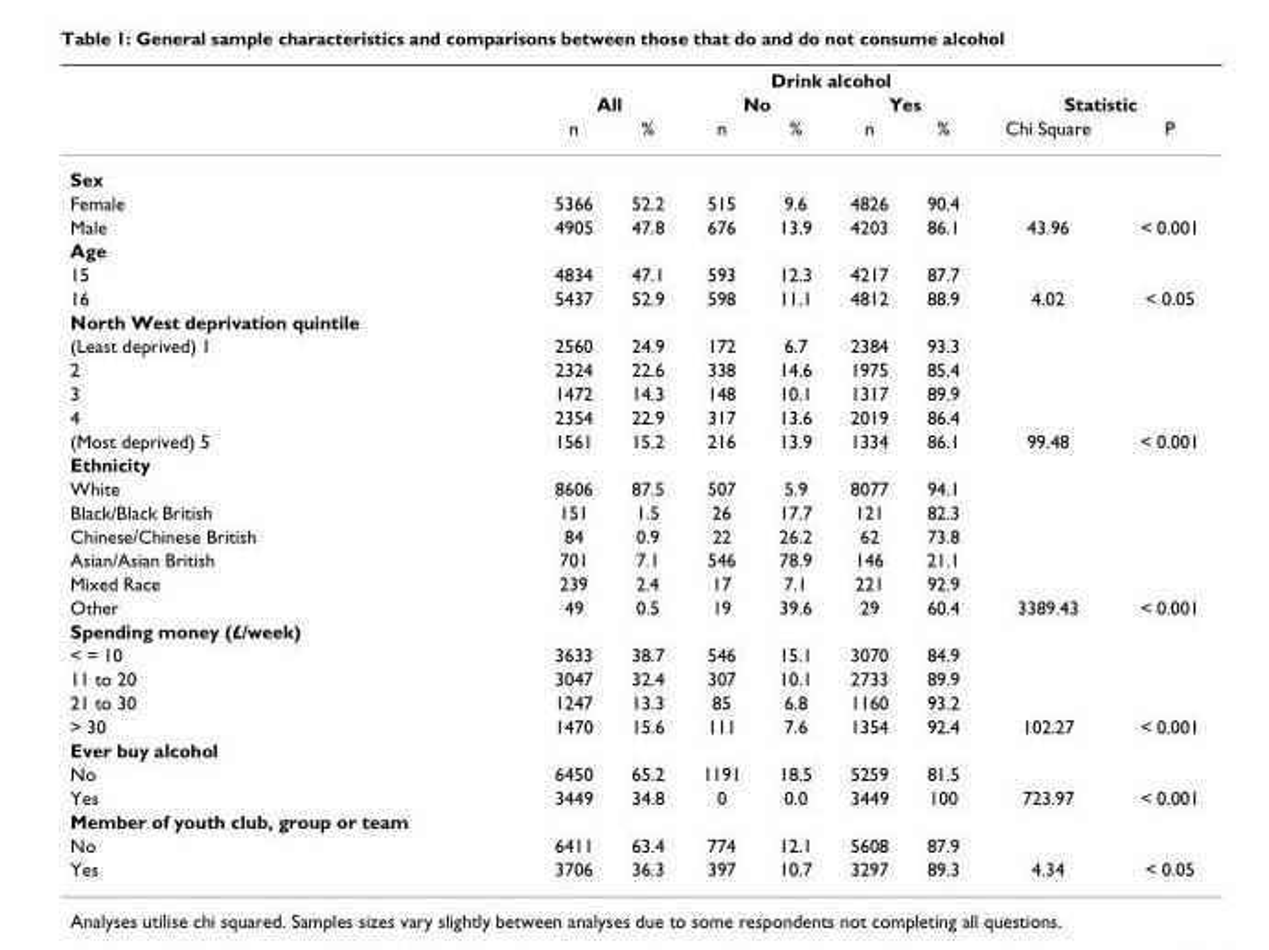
<table><thead><tr><td rowspan="3"></td><td></td><td></td><td colspan="4">Drink alcohol</td><td></td><td></td></tr><tr><td colspan="2">All</td><td colspan="2">No</td><td colspan="2">Yes</td><td colspan="2">Statistic</td></tr><tr><td>n</td><td>%</td><td>n</td><td>%</td><td>n</td><td>%</td><td>Chi Square</td><td>P</td></tr></thead><tbody><tr><td colspan="9">Sex</td></tr><tr><td>Female</td><td>5366</td><td>52.2</td><td>515</td><td>9.6</td><td>4826</td><td>90.4</td><td></td><td></td></tr><tr><td>Male</td><td>4905</td><td>47.8</td><td>676</td><td>13.9</td><td>4203</td><td>86.1</td><td>43.96</td><td>&lt; 0.001</td></tr><tr><td colspan="9">Age</td></tr><tr><td>15</td><td>4834</td><td>47.1</td><td>593</td><td>12.3</td><td>4217</td><td>87.7</td><td></td><td></td></tr><tr><td>16</td><td>5437</td><td>52.9</td><td>598</td><td>11.1</td><td>4812</td><td>88.9</td><td>4.02</td><td>&lt; 0.05</td></tr><tr><td colspan="9">North West deprivation quintile</td></tr><tr><td>(Least deprived) 1</td><td>2560</td><td>24.9</td><td>172</td><td>6.7</td><td>2384</td><td>93.3</td><td></td><td></td></tr><tr><td>2</td><td>2324</td><td>22.6</td><td>338</td><td>14.6</td><td>1975</td><td>85.4</td><td></td><td></td></tr><tr><td>3</td><td>1472</td><td>14.3</td><td>148</td><td>10.1</td><td>1317</td><td>89.9</td><td></td><td></td></tr><tr><td>4</td><td>2354</td><td>22.9</td><td>317</td><td>13.6</td><td>2019</td><td>86.4</td><td></td><td></td></tr><tr><td>(Most deprived) 5</td><td>1561</td><td>15.2</td><td>216</td><td>13.9</td><td>1334</td><td>86.1</td><td>99.48</td><td>&lt; 0.001</td></tr><tr><td colspan="9">Ethnicity</td></tr><tr><td>White</td><td>8606</td><td>87.5</td><td>507</td><td>5.9</td><td>8077</td><td>94.1</td><td></td><td></td></tr><tr><td>Black/Black British</td><td>151</td><td>1.5</td><td>26</td><td>17.7</td><td>121</td><td>82.3</td><td></td><td></td></tr><tr><td>Chinese/Chinese British</td><td>84</td><td>0.9</td><td>22</td><td>26.2</td><td>62</td><td>73.8</td><td></td><td></td></tr><tr><td>Asian/Asian British</td><td>701</td><td>7.1</td><td>546</td><td>78.9</td><td>146</td><td>21.1</td><td></td><td></td></tr><tr><td>Mixed Race</td><td>239</td><td>2.4</td><td>17</td><td>7.1</td><td>221</td><td>92.9</td><td></td><td></td></tr><tr><td>Other</td><td>49</td><td>0.5</td><td>19</td><td>39.6</td><td>29</td><td>60.4</td><td>3389.43</td><td>&lt; 0.001</td></tr><tr><td colspan="9">Spending money (£/week)</td></tr><tr><td>&lt; = 10</td><td>3633</td><td>38.7</td><td>546</td><td>15.1</td><td>3070</td><td>84.9</td><td></td><td></td></tr><tr><td>11 to 20</td><td>3047</td><td>32.4</td><td>307</td><td>10.1</td><td>2733</td><td>89.9</td><td></td><td></td></tr><tr><td>21 to 30</td><td>1247</td><td>13.3</td><td>85</td><td>6.8</td><td>1160</td><td>93.2</td><td></td><td></td></tr><tr><td>&gt; 30</td><td>1470</td><td>15.6</td><td>111</td><td>7.6</td><td>1354</td><td>92.4</td><td>102.27</td><td>&lt; 0.001</td></tr><tr><td colspan="9">Ever buy alcohol</td></tr><tr><td>No</td><td>6450</td><td>65.2</td><td>1191</td><td>18.5</td><td>5259</td><td>81.5</td><td></td><td></td></tr><tr><td>Yes</td><td>3449</td><td>34.8</td><td>0</td><td>0.0</td><td>3449</td><td>100</td><td>723.97</td><td>&lt; 0.001</td></tr><tr><td colspan="9">Member of youth club, group or team</td></tr><tr><td>No</td><td>6411</td><td>63.4</td><td>774</td><td>12.1</td><td>5608</td><td>87.9</td><td></td><td></td></tr><tr><td>Yes</td><td>3706</td><td>36.3</td><td>397</td><td>10.7</td><td>3297</td><td>89.3</td><td>4.34</td><td>&lt; 0.05</td></tr></tbody></table>